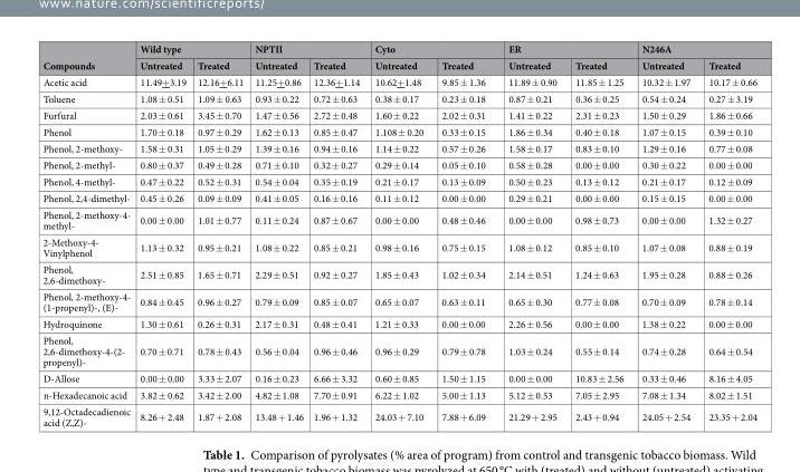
<table><thead><tr><td rowspan="2">Compounds</td><td colspan="2">Wild type</td><td colspan="2">NPTII</td><td colspan="2">Cyto</td><td colspan="2">ER</td><td colspan="2">N246A</td></tr><tr><td>Untreated</td><td>Treated</td><td>Untreated</td><td>Treated</td><td>Untreated</td><td>Treated</td><td>Untreated</td><td>Treated</td><td>Untreated</td><td>Treated</td></tr></thead><tbody><tr><td>Acetic acid</td><td>11.49+3.19</td><td>12.16+6.11</td><td>11.25+0.86</td><td>12.36+1.14</td><td>10.62+1.48</td><td>9.85 ± 1.36</td><td>11.89 ± 0.90</td><td>11.85 ± 1.25</td><td>10.32 ± 1.97</td><td>10.17 ± 0.66</td></tr><tr><td>Toluene</td><td>1.08 ± 0.51</td><td>1.09 ± 0.63</td><td>0.93 ± 0.22</td><td>0.72 ± 0.63</td><td>0.38 ± 0.17</td><td>0.23 ± 0.18</td><td>0.87 ± 0.21</td><td>0.36 ± 0.25</td><td>0.54 ± 0.24</td><td>0.27 ± 3.19</td></tr><tr><td>Furfural</td><td>2.03 ± 0.61</td><td>3.45 ± 0.70</td><td>1.47 ± 0.56</td><td>2.72 ± 0.48</td><td>1.60 ± 0.22</td><td>2.02 ± 0.31</td><td>1.41 ± 0.22</td><td>2.31 ± 0.23</td><td>1.50 ± 0.29</td><td>1.86 ± 0.66</td></tr><tr><td>Phenol</td><td>1.70 ± 0.18</td><td>0.97 ± 0.29</td><td>1.62 ± 0.13</td><td>0.85 ± 0.47</td><td>1.108 ± 0.20</td><td>0.33 ± 0.15</td><td>1.86 ± 0.34</td><td>0.40 ± 0.18</td><td>1.07 ± 0.15</td><td>0.39 ± 0.10</td></tr><tr><td>Phenol, 2-methoxy-</td><td>1.58 ± 0.31</td><td>1.05 ± 0.29</td><td>1.39 ± 0.16</td><td>0.94 ± 0.16</td><td>1.14 ± 0.22</td><td>0.57 ± 0.26</td><td>1.58 ± 0.17</td><td>0.83 ± 0.10</td><td>1.29 ± 0.16</td><td>0.77 ± 0.08</td></tr><tr><td>Phenol, 2-methyl-</td><td>0.80 ± 0.37</td><td>0.49 ± 0.28</td><td>0.71 ± 0.10</td><td>0.32 ± 0.27</td><td>0.29 ± 0.14</td><td>0.05 ± 0.10</td><td>0.58 ± 0.28</td><td>0.00 ± 0.00</td><td>0.30 ± 0.22</td><td>0.00 ± 0.00</td></tr><tr><td>Phenol, 4-methyl-</td><td>0.47 ± 0.22</td><td>0.52 ± 0.31</td><td>0.54 ± 0.04</td><td>0.35 ± 0.19</td><td>0.21 ± 0.17</td><td>0.13 ± 0.09</td><td>0.50 ± 0.23</td><td>0.13 ± 0.12</td><td>0.21 ± 0.17</td><td>0.12 ± 0.09</td></tr><tr><td>Phenol, 2,4-dimethyl-</td><td>0.45 ± 0.26</td><td>0.09 ± 0.09</td><td>0.41 ± 0.05</td><td>0.16 ± 0.16</td><td>0.11 ± 0.12</td><td>0.00 ± 0.00</td><td>0.29 ± 0.21</td><td>0.00 ± 0.00</td><td>0.15 ± 0.15</td><td>0.00 ± 0.00</td></tr><tr><td>Phenol, 2-methoxy-4- methyl-</td><td>0.00 ± 0.00</td><td>1.01 ± 0.77</td><td>0.11 ± 0.24</td><td>0.87 ± 0.67</td><td>0.00 ± 0.00</td><td>0.48 ± 0.46</td><td>0.00 ± 0.00</td><td>0.98 ± 0.73</td><td>0.00 ± 0.00</td><td>1.32 ± 0.27</td></tr><tr><td>2-Methoxy-4- Vinylphenol</td><td>1.13 ± 0.32</td><td>0.95 ± 0.21</td><td>1.08 ± 0.22</td><td>0.85 ± 0.21</td><td>0.98 ± 0.16</td><td>0.75 ± 0.15</td><td>1.08 ± 0.12</td><td>0.85 ± 0.10</td><td>1.07 ± 0.08</td><td>0.88 ± 0.19</td></tr><tr><td>Phenol, 2,6-dimethoxy-</td><td>2.51 ± 0.85</td><td>1.65 ± 0.71</td><td>2.29 ± 0.51</td><td>0.92 ± 0.27</td><td>1.85 ± 0.43</td><td>1.02 ± 0.34</td><td>2.14 ± 0.51</td><td>1.24 ± 0.63</td><td>1.95 ± 0.28</td><td>0.88 ± 0.26</td></tr><tr><td>Phenol, 2-methoxy-4- (1-propenyl)-, (E)-</td><td>0.84 ± 0.45</td><td>0.96 ± 0.27</td><td>0.79 ± 0.09</td><td>0.85 ± 0.07</td><td>0.65 ± 0.07</td><td>0.63 ± 0.11</td><td>0.65 ± 0.30</td><td>0.77 ± 0.08</td><td>0.70 ± 0.09</td><td>0.78 ± 0.14</td></tr><tr><td>Hydroquinone</td><td>1.30 ± 0.61</td><td>0.26 ± 0.31</td><td>2.17 ± 0.31</td><td>0.48 ± 0.41</td><td>1.21 ± 0.33</td><td>0.00 ± 0.00</td><td>2.26 ± 0.56</td><td>0.00 ± 0.00</td><td>1.38 ± 0.22</td><td>0.00 ± 0.00</td></tr><tr><td>Phenol, 2,6-dimethoxy-4-(2- propenyl)-</td><td>0.70 ± 0.71</td><td>0.78 ± 0.43</td><td>0.56 ± 0.04</td><td>0.96 ± 0.46</td><td>0.96 ± 0.29</td><td>0.79 ± 0.78</td><td>1.03 ± 0.24</td><td>0.55 ± 0.14</td><td>0.74 ± 0.28</td><td>0.64 ± 0.54</td></tr><tr><td>D-Allose</td><td>0.00 ± 0.00</td><td>3.33 ± 2.07</td><td>0.16 ± 0.23</td><td>6.66 ± 3.32</td><td>0.60 ± 0.85</td><td>1.50 ± 1.15</td><td>0.00 ± 0.00</td><td>10.83 ± 2.56</td><td>0.33 ± 0.46</td><td>8.16 ± 4.05</td></tr><tr><td>n-Hexadecanoic acid</td><td>3.82 ± 0.62</td><td>3.42 ± 2.00</td><td>4.82 ± 1.08</td><td>7.70 ± 0.91</td><td>6.22 ± 1.02</td><td>5.00 ± 1.13</td><td>5.12 ± 0.53</td><td>7.05 ± 2.95</td><td>7.08 ± 1.34</td><td>8.02 ± 1.51</td></tr><tr><td>9,12-Octadecadienoic acid (Z,Z)-</td><td>8.26 + 2.48</td><td>1.87 + 2.08</td><td>13.48 + 1.46</td><td>1.96 + 1.32</td><td>24.03 + 7.10</td><td>7.88 + 6.09</td><td>21.29 + 2.95</td><td>2.43 + 0.94</td><td>24.05 + 2.54</td><td>23.35 + 2.04</td></tr></tbody></table>